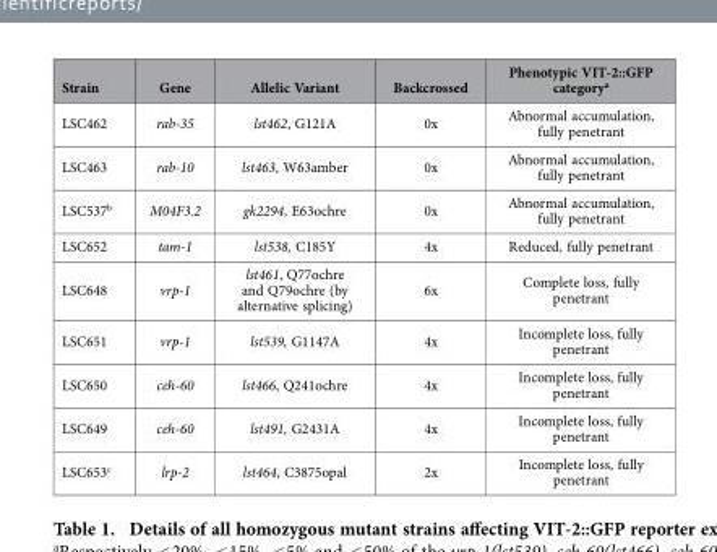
<table><thead><tr><td>Strain</td><td>Gene</td><td>Allelic Variant</td><td>Backcrossed</td><td>Phenotypic VIT-2::GFP category<sup>a</sup></td></tr></thead><tbody><tr><td>LSC462</td><td>rab-35</td><td>lst462, G121A</td><td>0x</td><td>Abnormal accumulation, fully penetrant</td></tr><tr><td>LSC463</td><td>rab-10</td><td>lst463, W63amber</td><td>0x</td><td>Abnormal accumulation, fully penetrant</td></tr><tr><td>LSC537<sup>b</sup></td><td>M04F3.2</td><td>gk2294, E63ochre</td><td>0x</td><td>Abnormal accumulation, fully penetrant</td></tr><tr><td>LSC652</td><td>tam-1</td><td>lst538, C185Y</td><td>4x</td><td>Reduced, fully penetrant</td></tr><tr><td>LSC648</td><td>vrp-1</td><td>lst461, Q77ochre and Q79ochre (by alternative splicing)</td><td>6x</td><td>Complete loss, fully penetrant</td></tr><tr><td>LSC651</td><td>vrp-1</td><td>lst539, G1147A</td><td>4x</td><td>Incomplete loss, fully penetrant</td></tr><tr><td>LSC650</td><td>ceh-60</td><td>lst466, Q241ochre</td><td>4x</td><td>Incomplete loss, fully penetrant</td></tr><tr><td>LSC649</td><td>ceh-60</td><td>lst491, G2431A</td><td>4x</td><td>Incomplete loss, fully penetrant</td></tr><tr><td>LSC653<sup>c</sup></td><td>lrp-2</td><td>lst464, C3875opal</td><td>2x</td><td>Incomplete loss, fully penetrant</td></tr></tbody></table>